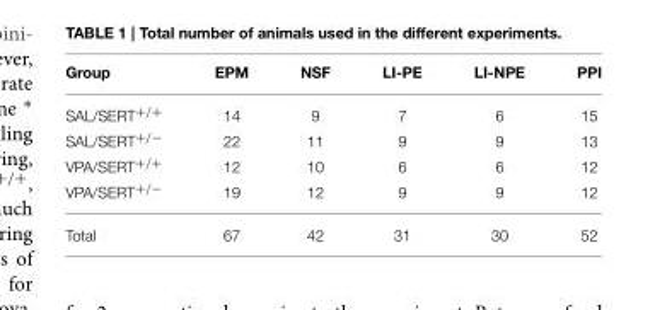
<table><thead><tr><td>Group</td><td>EPM</td><td>NSF</td><td>LI-PE</td><td>LI-NPE</td><td>PPI</td></tr></thead><tbody><tr><td>SAL/SERT<sup>+/+</sup></td><td>14</td><td>9</td><td>7</td><td>6</td><td>15</td></tr><tr><td>SAL/SERT<sup>+/−</sup></td><td>22</td><td>11</td><td>9</td><td>9</td><td>13</td></tr><tr><td>VPA/SERT<sup>+/+</sup></td><td>12</td><td>10</td><td>6</td><td>6</td><td>12</td></tr><tr><td>VPA/SERT<sup>+/−</sup></td><td>19</td><td>12</td><td>9</td><td>9</td><td>12</td></tr><tr><td>Total</td><td>67</td><td>42</td><td>31</td><td>30</td><td>52</td></tr></tbody></table>